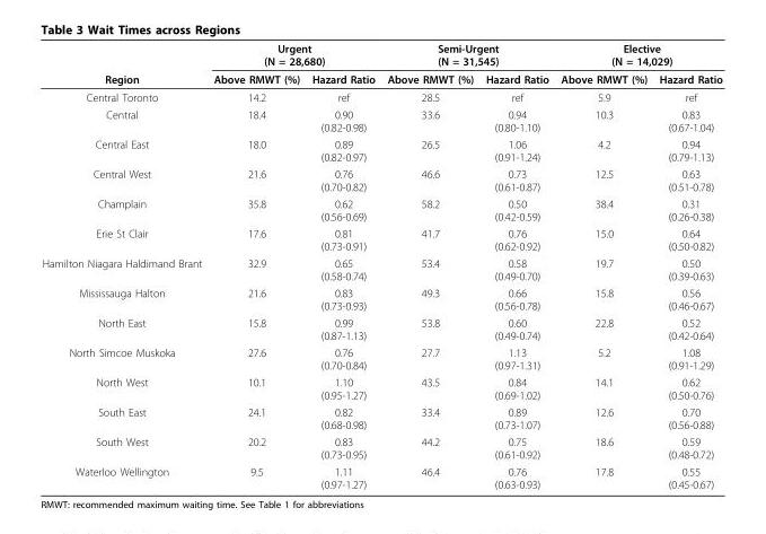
<table><thead><tr><td rowspan="2">Region</td><td colspan="2">Urgent (N = 28,680)</td><td colspan="2">Semi-Urgent (N = 31,545)</td><td colspan="2">Elective (N = 14,029)</td></tr><tr><td>Above RMWT (%)</td><td>Hazard Ratio</td><td>Above RMWT (%)</td><td>Hazard Ratio</td><td>Above RMWT (%)</td><td>Hazard Ratio</td></tr></thead><tbody><tr><td>Central Toronto</td><td>14.2</td><td>ref</td><td>28.5</td><td>ref</td><td>5.9</td><td>ref</td></tr><tr><td>Central</td><td>18.4</td><td>0.90 (0.82-0.98)</td><td>33.6</td><td>0.94 (0.80-1.10)</td><td>10.3</td><td>0.83 (0.67-1.04)</td></tr><tr><td>Central East</td><td>18.0</td><td>0.89 (0.82-0.97)</td><td>26.5</td><td>1.06 (0.91-1.24)</td><td>4.2</td><td>0.94 (0.79-1.13)</td></tr><tr><td>Central West</td><td>21.6</td><td>0.76 (0.70-0.82)</td><td>46.6</td><td>0.73 (0.61-0.87)</td><td>12.5</td><td>0.63 (0.51-0.78)</td></tr><tr><td>Champlain</td><td>35.8</td><td>0.62 (0.56-0.69)</td><td>58.2</td><td>0.50 (0.42-0.59)</td><td>38.4</td><td>0.31 (0.26-0.38)</td></tr><tr><td>Erie St Clair</td><td>17.6</td><td>0.81 (0.73-0.91)</td><td>41.7</td><td>0.76 (0.62-0.92)</td><td>15.0</td><td>0.64 (0.50-0.82)</td></tr><tr><td>Hamilton Niagara Haldimand Brant</td><td>32.9</td><td>0.65 (0.58-0.74)</td><td>53.4</td><td>0.58 (0.49-0.70)</td><td>19.7</td><td>0.50 (0.39-0.63)</td></tr><tr><td>Mississauga Halton</td><td>21.6</td><td>0.83 (0.73-0.93)</td><td>49.3</td><td>0.66 (0.56-0.78)</td><td>15.8</td><td>0.56 (0.46-0.67)</td></tr><tr><td>North East</td><td>15.8</td><td>0.99 (0.87-1.13)</td><td>53.8</td><td>0.60 (0.49-0.74)</td><td>22.8</td><td>0.52 (0.42-0.64)</td></tr><tr><td>North Simcoe Muskoka</td><td>27.6</td><td>0.76 (0.70-0.84)</td><td>27.7</td><td>1.13 (0.97-1.31)</td><td>5.2</td><td>1.08 (0.91-1.29)</td></tr><tr><td>North West</td><td>10.1</td><td>1.10 (0.95-1.27)</td><td>43.5</td><td>0.84 (0.69-1.02)</td><td>14.1</td><td>0.62 (0.50-0.76)</td></tr><tr><td>South East</td><td>24.1</td><td>0.82 (0.68-0.98)</td><td>33.4</td><td>0.89 (0.73-1.07)</td><td>12.6</td><td>0.70 (0.56-0.88)</td></tr><tr><td>South West</td><td>20.2</td><td>0.83 (0.73-0.95)</td><td>44.2</td><td>0.75 (0.61-0.92)</td><td>18.6</td><td>0.59 (0.48-0.72)</td></tr><tr><td>Waterloo Wellington</td><td>9.5</td><td>1.11 (0.97-1.27)</td><td>46.4</td><td>0.76 (0.63-0.93)</td><td>17.8</td><td>0.55 (0.45-0.67)</td></tr></tbody></table>